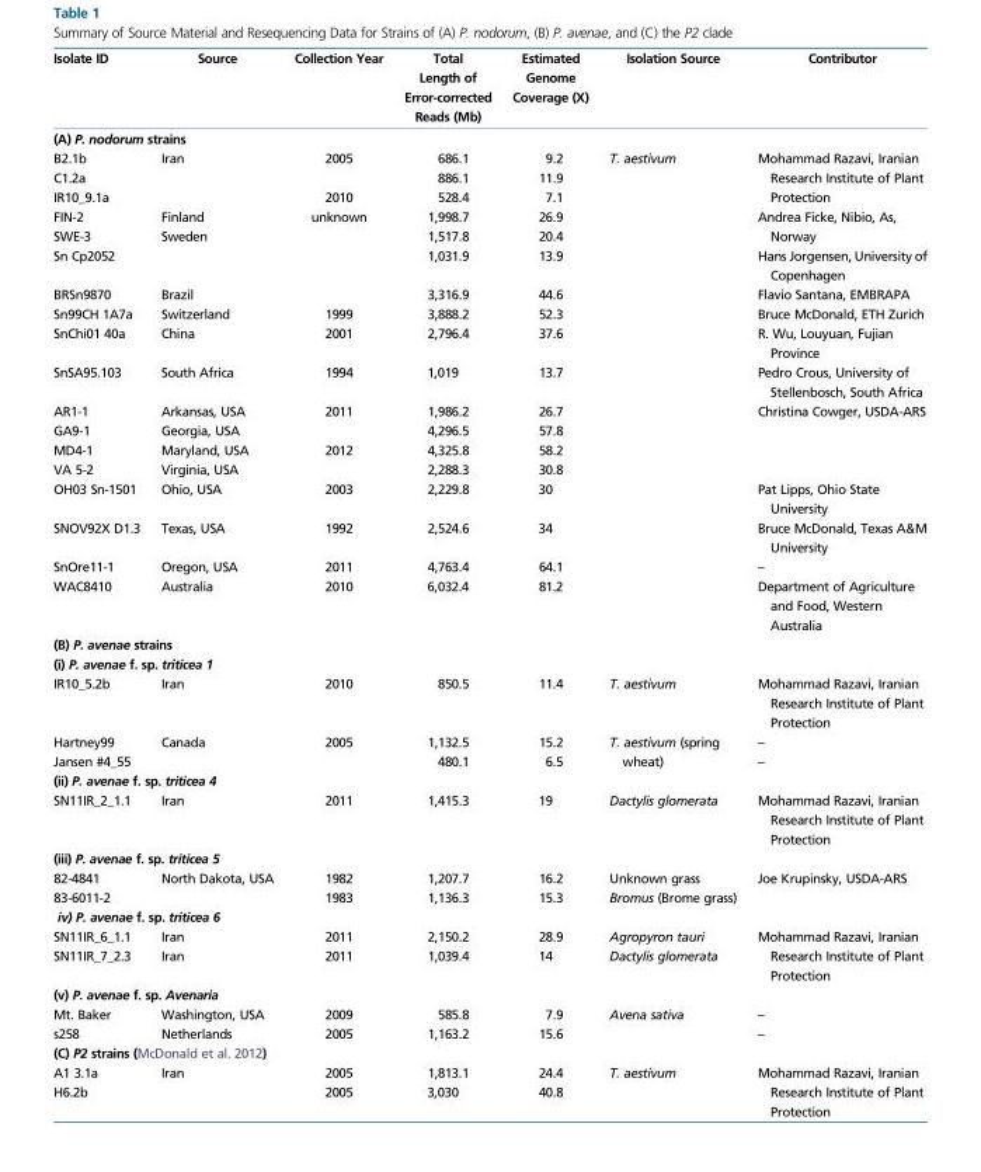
<table><thead><tr><td>Isolate ID</td><td>Source</td><td>Collection Year</td><td>Total Length of Error-corrected Reads (Mb)</td><td>Estimated Genome Coverage (X)</td><td>Isolation Source</td><td>Contributor</td></tr></thead><tbody><tr><td colspan="7">(A) P. nodorum strains</td></tr><tr><td>B2.1b</td><td rowspan="3">Iran</td><td rowspan="2">2005</td><td>686.1</td><td>9.2</td><td rowspan="18">T. aestivum</td><td rowspan="3">Mohammad Razavi, Iranian Research Institute of Plant Protection</td></tr><tr><td>C1.2a</td><td>886.1</td><td>11.9</td></tr><tr><td>IR10_9.1a</td><td>2010</td><td>528.4</td><td>7.1</td></tr><tr><td>FIN-2</td><td>Finland</td><td rowspan="4">unknown</td><td>1,998.7</td><td>26.9</td><td rowspan="2">Andrea Ficke, Nibio, As, Norway</td></tr><tr><td>SWE-3</td><td rowspan="2">Sweden</td><td>1,517.8</td><td>20.4</td></tr><tr><td>Sn Cp2052</td><td>1,031.9</td><td>13.9</td><td>Hans Jorgensen, University of Copenhagen</td></tr><tr><td>BRSn9870</td><td>Brazil</td><td>3,316.9</td><td>44.6</td><td>Flavio Santana, EMBRAPA</td></tr><tr><td>Sn99CH 1A7a</td><td>Switzerland</td><td>1999</td><td>3,888.2</td><td>52.3</td><td>Bruce McDonald, ETH Zurich</td></tr><tr><td>SnChi01 40a</td><td>China</td><td>2001</td><td>2,796.4</td><td>37.6</td><td>R. Wu, Louyuan, Fujian Province</td></tr><tr><td>SnSA95.103</td><td>South Africa</td><td>1994</td><td>1,019</td><td>13.7</td><td>Pedro Crous, University of Stellenbosch, South Africa</td></tr><tr><td>AR1-1</td><td>Arkansas, USA</td><td rowspan="2">2011</td><td>1,986.2</td><td>26.7</td><td rowspan="4">Christina Cowger, USDA-ARS</td></tr><tr><td>GA9-1</td><td>Georgia, USA</td><td>4,296.5</td><td>57.8</td></tr><tr><td>MD4-1</td><td>Maryland, USA</td><td rowspan="2">2012</td><td>4,325.8</td><td>58.2</td></tr><tr><td>VA 5-2</td><td>Virginia, USA</td><td>2,288.3</td><td>30.8</td></tr><tr><td>OH03 Sn-1501</td><td>Ohio, USA</td><td>2003</td><td>2,229.8</td><td>30</td><td>Pat Lipps, Ohio State University</td></tr><tr><td>SNOV92X D1.3</td><td>Texas, USA</td><td>1992</td><td>2,524.6</td><td>34</td><td>Bruce McDonald, Texas A&amp;M University</td></tr><tr><td>SnOre11-1</td><td>Oregon, USA</td><td>2011</td><td>4,763.4</td><td>64.1</td><td>–</td></tr><tr><td>WAC8410</td><td>Australia</td><td>2010</td><td>6,032.4</td><td>81.2</td><td>Department of Agriculture and Food, Western Australia</td></tr><tr><td colspan="7">(B) P. avenae strains</td></tr><tr><td colspan="7">(i) P. avenae f. sp. triticea 1</td></tr><tr><td>IR10_5.2b</td><td>Iran</td><td>2010</td><td>850.5</td><td>11.4</td><td>T. aestivum</td><td>Mohammad Razavi, Iranian Research Institute of Plant Protection</td></tr><tr><td>Hartney99</td><td rowspan="2">Canada</td><td rowspan="2">2005</td><td>1,132.5</td><td>15.2</td><td rowspan="2">T. aestivum (spring wheat)</td><td>–</td></tr><tr><td>Jansen #4_55</td><td>480.1</td><td>6.5</td><td>–</td></tr><tr><td colspan="7">(ii) P. avenae f. sp. triticea 4</td></tr><tr><td>SN11IR_2_1.1</td><td>Iran</td><td>2011</td><td>1,415.3</td><td>19</td><td>Dactylis glomerata</td><td>Mohammad Razavi, Iranian Research Institute of Plant Protection</td></tr><tr><td colspan="7">(iii) P. avenae f. sp. triticea 5</td></tr><tr><td>82-4841</td><td rowspan="2">North Dakota, USA</td><td>1982</td><td>1,207.7</td><td>16.2</td><td>Unknown grass</td><td rowspan="2">Joe Krupinsky, USDA-ARS</td></tr><tr><td>83-6011-2</td><td>1983</td><td>1,136.3</td><td>15.3</td><td>Bromus (Brome grass)</td></tr><tr><td colspan="7">iv) P. avenae f. sp. triticea 6</td></tr><tr><td>SN11IR_6_1.1</td><td>Iran</td><td>2011</td><td>2,150.2</td><td>28.9</td><td>Agropyron tauri</td><td rowspan="2">Mohammad Razavi, Iranian Research Institute of Plant Protection</td></tr><tr><td>SN11IR_7_2.3</td><td>Iran</td><td>2011</td><td>1,039.4</td><td>14</td><td>Dactylis glomerata</td></tr><tr><td colspan="7">(v) P. avenae f. sp. Avenaria</td></tr><tr><td>Mt. Baker</td><td>Washington, USA</td><td>2009</td><td>585.8</td><td>7.9</td><td rowspan="2">Avena sativa</td><td>–</td></tr><tr><td>s258</td><td>Netherlands</td><td>2005</td><td>1,163.2</td><td>15.6</td><td>–</td></tr><tr><td colspan="7">(C) P2 strains (McDonald et al. 2012)</td></tr><tr><td>A1 3.1a</td><td rowspan="2">Iran</td><td>2005</td><td>1,813.1</td><td>24.4</td><td rowspan="2">T. aestivum</td><td rowspan="2">Mohammad Razavi, Iranian Research Institute of Plant Protection</td></tr><tr><td>H6.2b</td><td>2005</td><td>3,030</td><td>40.8</td></tr></tbody></table>